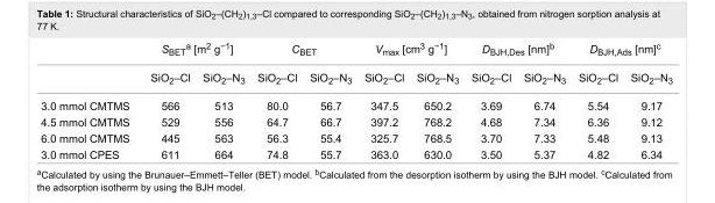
<table><thead><tr><td rowspan="2"></td><td colspan="2">S<sub>BET</sub><sup>a</sup> [m<sup>2</sup> g<sup>−1</sup>]</td><td colspan="2">C<sub>BET</sub></td><td colspan="2">V<sub>max</sub> [cm<sup>3</sup> g<sup>−1</sup>]</td><td colspan="2">D<sub>BJH,Des</sub> [nm]<sup>b</sup></td><td colspan="2">D<sub>BJH,Ads</sub> [nm]<sup>c</sup></td></tr><tr><td>SiO<sub>2</sub>–Cl</td><td>SiO<sub>2</sub>–N<sub>3</sub></td><td>SiO<sub>2</sub>–Cl</td><td>SiO<sub>2</sub>–N<sub>3</sub></td><td>SiO<sub>2</sub>–Cl</td><td>SiO<sub>2</sub>–N<sub>3</sub></td><td>SiO<sub>2</sub>–Cl</td><td>SiO<sub>2</sub>–N<sub>3</sub></td><td>SiO<sub>2</sub>–Cl</td><td>SiO<sub>2</sub>–N<sub>3</sub></td></tr></thead><tbody><tr><td>3.0 mmol CMTMS</td><td>566</td><td>513</td><td>80.0</td><td>56.7</td><td>347.5</td><td>650.2</td><td>3.69</td><td>6.74</td><td>5.54</td><td>9.17</td></tr><tr><td>4.5 mmol CMTMS</td><td>529</td><td>556</td><td>64.7</td><td>66.7</td><td>397.2</td><td>768.2</td><td>4.68</td><td>7.34</td><td>6.36</td><td>9.12</td></tr><tr><td>6.0 mmol CMTMS</td><td>445</td><td>563</td><td>56.3</td><td>55.4</td><td>325.7</td><td>768.5</td><td>3.70</td><td>7.33</td><td>5.48</td><td>9.13</td></tr><tr><td>3.0 mmol CPES</td><td>611</td><td>664</td><td>74.8</td><td>55.7</td><td>363.0</td><td>630.0</td><td>3.50</td><td>5.37</td><td>4.82</td><td>6.34</td></tr></tbody></table>